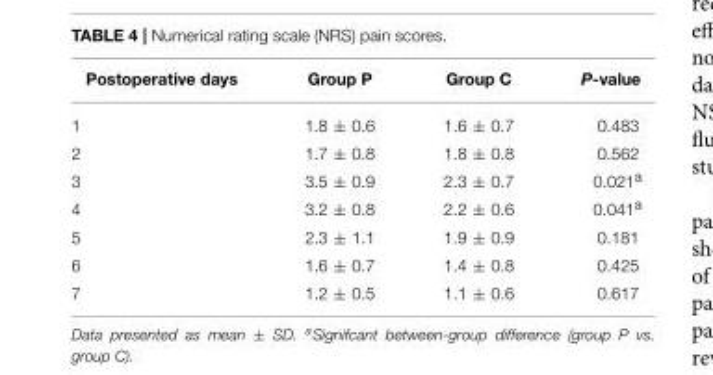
<table><thead><tr><td>Postoperative days</td><td>Group P</td><td>Group C</td><td>P-value</td></tr></thead><tbody><tr><td>1</td><td>1.8 ± 0.6</td><td>1.6 ± 0.7</td><td>0.483</td></tr><tr><td>2</td><td>1.7 ± 0.8</td><td>1.8 ± 0.8</td><td>0.562</td></tr><tr><td>3</td><td>3.5 ± 0.9</td><td>2.3 ± 0.7</td><td>0.021<sup>a</sup></td></tr><tr><td>4</td><td>3.2 ± 0.8</td><td>2.2 ± 0.6</td><td>0.041<sup>a</sup></td></tr><tr><td>5</td><td>2.3 ± 1.1</td><td>1.9 ± 0.9</td><td>0.181</td></tr><tr><td>6</td><td>1.6 ± 0.7</td><td>1.4 ± 0.8</td><td>0.425</td></tr><tr><td>7</td><td>1.2 ± 0.5</td><td>1.1 ± 0.6</td><td>0.617</td></tr></tbody></table>